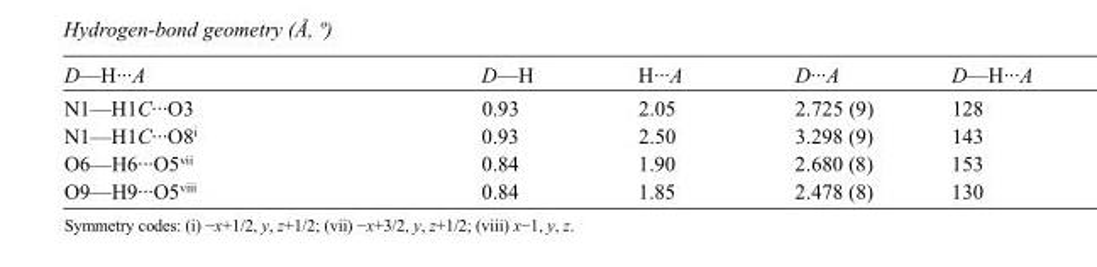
<table><tbody><tr><td>D—H···A</td><td>D—H</td><td>H···A</td><td>D···A</td><td>D—H···A</td></tr><tr><td>N1—H1C···O3</td><td>0.93</td><td>2.05</td><td>2.725 (9)</td><td>128</td></tr><tr><td>N1—H1C···O8<sup>i</sup></td><td>0.93</td><td>2.50</td><td>3.298 (9)</td><td>143</td></tr><tr><td>O6—H6···O5<sup>vii</sup></td><td>0.84</td><td>1.90</td><td>2.680 (8)</td><td>153</td></tr><tr><td>O9—H9···O5<sup>viii</sup></td><td>0.84</td><td>1.85</td><td>2.478 (8)</td><td>130</td></tr></tbody></table>